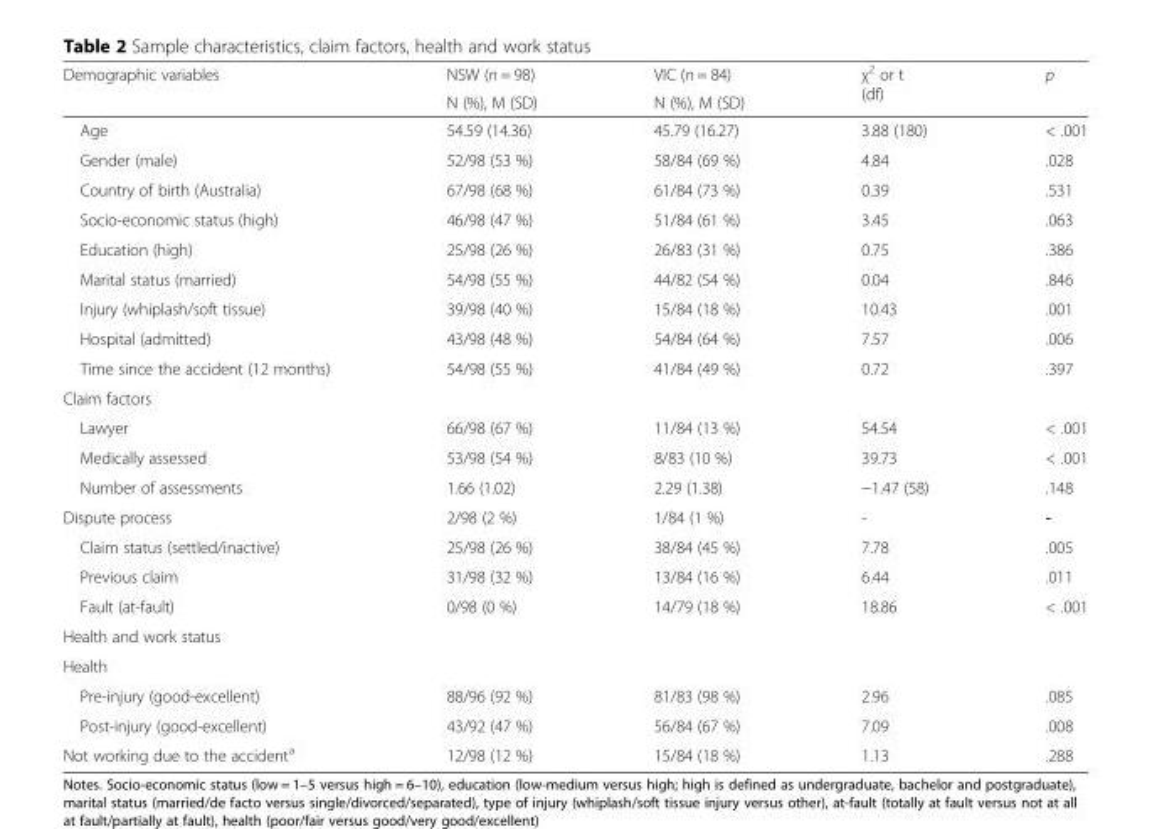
<table><thead><tr><td rowspan="2">Demographic variables</td><td rowspan="2">NSW (n = 98) N (%), M (SD)</td><td rowspan="2">VIC (n = 84) N (%), M (SD)</td><td rowspan="2">χ<sup>2</sup> or t (df)</td><td rowspan="2">p</td></tr><tr></tr></thead><tbody><tr><td>Age</td><td>54.59 (14.36)</td><td>45.79 (16.27)</td><td>3.88 (180)</td><td>&lt; .001</td></tr><tr><td>Gender (male)</td><td>52/98 (53 %)</td><td>58/84 (69 %)</td><td>4.84</td><td>.028</td></tr><tr><td>Country of birth (Australia)</td><td>67/98 (68 %)</td><td>61/84 (73 %)</td><td>0.39</td><td>.531</td></tr><tr><td>Socio-economic status (high)</td><td>46/98 (47 %)</td><td>51/84 (61 %)</td><td>3.45</td><td>.063</td></tr><tr><td>Education (high)</td><td>25/98 (26 %)</td><td>26/83 (31 %)</td><td>0.75</td><td>.386</td></tr><tr><td>Marital status (married)</td><td>54/98 (55 %)</td><td>44/82 (54 %)</td><td>0.04</td><td>.846</td></tr><tr><td>Injury (whiplash/soft tissue)</td><td>39/98 (40 %)</td><td>15/84 (18 %)</td><td>10.43</td><td>.001</td></tr><tr><td>Hospital (admitted)</td><td>43/98 (48 %)</td><td>54/84 (64 %)</td><td>7.57</td><td>.006</td></tr><tr><td>Time since the accident (12 months)</td><td>54/98 (55 %)</td><td>41/84 (49 %)</td><td>0.72</td><td>.397</td></tr><tr><td colspan="5">Claim factors</td></tr><tr><td>Lawyer</td><td>66/98 (67 %)</td><td>11/84 (13 %)</td><td>54.54</td><td>&lt; .001</td></tr><tr><td>Medically assessed</td><td>53/98 (54 %)</td><td>8/83 (10 %)</td><td>39.73</td><td>&lt; .001</td></tr><tr><td>Number of assessments</td><td>1.66 (1.02)</td><td>2.29 (1.38)</td><td>−1.47 (58)</td><td>.148</td></tr><tr><td>Dispute process</td><td>2/98 (2 %)</td><td>1/84 (1 %)</td><td>-</td><td>-</td></tr><tr><td>Claim status (settled/inactive)</td><td>25/98 (26 %)</td><td>38/84 (45 %)</td><td>7.78</td><td>.005</td></tr><tr><td>Previous claim</td><td>31/98 (32 %)</td><td>13/84 (16 %)</td><td>6.44</td><td>.011</td></tr><tr><td>Fault (at-fault)</td><td>0/98 (0 %)</td><td>14/79 (18 %)</td><td>18.86</td><td>&lt; .001</td></tr><tr><td colspan="5">Health and work status</td></tr><tr><td colspan="5">Health</td></tr><tr><td>Pre-injury (good-excellent)</td><td>88/96 (92 %)</td><td>81/83 (98 %)</td><td>2.96</td><td>.085</td></tr><tr><td>Post-injury (good-excellent)</td><td>43/92 (47 %)</td><td>56/84 (67 %)</td><td>7.09</td><td>.008</td></tr><tr><td>Not working due to the accident<sup>a</sup></td><td>12/98 (12 %)</td><td>15/84 (18 %)</td><td>1.13</td><td>.288</td></tr></tbody></table>